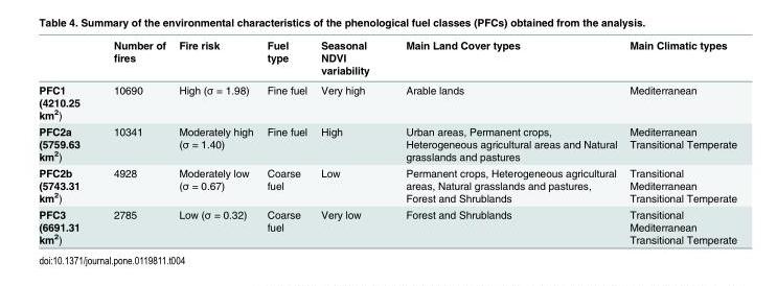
<table><thead><tr><td></td><td>Number of fires</td><td>Fire risk</td><td>Fuel type</td><td>Seasonal NDVI variability</td><td>Main Land Cover types</td><td>Main Climatic types</td></tr></thead><tbody><tr><td>PFC1 (4210.25 km<sup>2</sup>)</td><td>10690</td><td>High (σ = 1.98)</td><td>Fine fuel</td><td>Very high</td><td>Arable lands</td><td>Mediterranean</td></tr><tr><td>PFC2a (5759.63 km<sup>2</sup>)</td><td>10341</td><td>Moderately high (σ = 1.40)</td><td>Fine fuel</td><td>High</td><td>Urban areas, Permanent crops, Heterogeneous agricultural areas and Natural grasslands and pastures</td><td>Mediterranean Transitional Temperate</td></tr><tr><td>PFC2b (5743.31 km<sup>2</sup>)</td><td>4928</td><td>Moderately low (σ = 0.67)</td><td>Coarse fuel</td><td>Low</td><td>Permanent crops, Heterogeneous agricultural areas, Natural grasslands and pastures, Forest and Shrublands</td><td>Transitional Mediterranean Transitional Temperate</td></tr><tr><td>PFC3 (6691.31 km<sup>2</sup>)</td><td>2785</td><td>Low (σ = 0.32)</td><td>Coarse fuel</td><td>Very low</td><td>Forest and Shrublands</td><td>Transitional Mediterranean Transitional Temperate</td></tr></tbody></table>